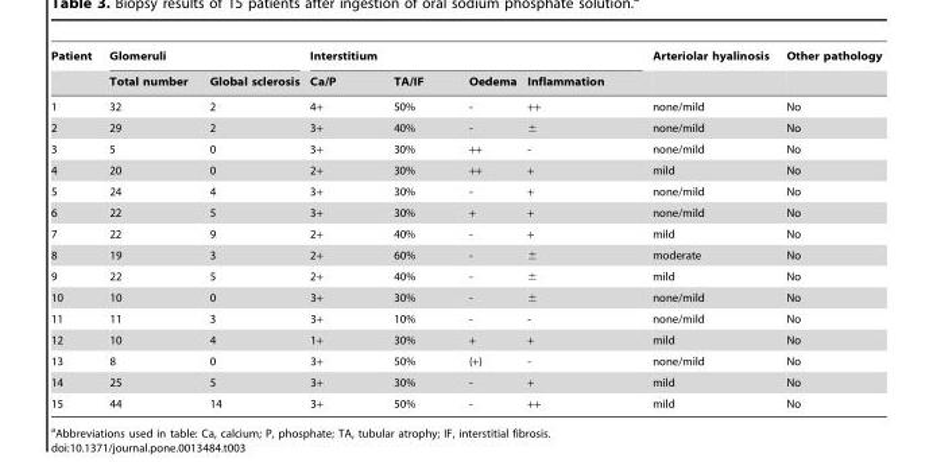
<table><thead><tr><td rowspan="2">Patient</td><td colspan="2">Glomeruli</td><td colspan="4">Interstitium</td><td rowspan="2">Arteriolar hyalinosis</td><td rowspan="2">Other pathology</td></tr><tr><td>Total number</td><td>Global sclerosis</td><td>Ca/P</td><td>TA/IF</td><td>Oedema</td><td>Inflammation</td></tr></thead><tbody><tr><td>1</td><td>32</td><td>2</td><td>4+</td><td>50%</td><td>-</td><td>++</td><td>none/mild</td><td>No</td></tr><tr><td>2</td><td>29</td><td>2</td><td>3+</td><td>40%</td><td>-</td><td>±</td><td>none/mild</td><td>No</td></tr><tr><td>3</td><td>5</td><td>0</td><td>3+</td><td>30%</td><td>++</td><td>-</td><td>none/mild</td><td>No</td></tr><tr><td>4</td><td>20</td><td>0</td><td>2+</td><td>30%</td><td>++</td><td>+</td><td>mild</td><td>No</td></tr><tr><td>5</td><td>24</td><td>4</td><td>3+</td><td>30%</td><td>-</td><td>+</td><td>none/mild</td><td>No</td></tr><tr><td>6</td><td>22</td><td>5</td><td>3+</td><td>30%</td><td>+</td><td>+</td><td>none/mild</td><td>No</td></tr><tr><td>7</td><td>22</td><td>9</td><td>2+</td><td>40%</td><td>-</td><td>+</td><td>mild</td><td>No</td></tr><tr><td>8</td><td>19</td><td>3</td><td>2+</td><td>60%</td><td>-</td><td>±</td><td>moderate</td><td>No</td></tr><tr><td>9</td><td>22</td><td>5</td><td>2+</td><td>40%</td><td>-</td><td>±</td><td>mild</td><td>No</td></tr><tr><td>10</td><td>10</td><td>0</td><td>3+</td><td>30%</td><td>-</td><td>±</td><td>none/mild</td><td>No</td></tr><tr><td>11</td><td>11</td><td>3</td><td>3+</td><td>10%</td><td>-</td><td>-</td><td>none/mild</td><td>No</td></tr><tr><td>12</td><td>10</td><td>4</td><td>1+</td><td>30%</td><td>+</td><td>+</td><td>mild</td><td>No</td></tr><tr><td>13</td><td>8</td><td>0</td><td>3+</td><td>50%</td><td>(+)</td><td>-</td><td>none/mild</td><td>No</td></tr><tr><td>14</td><td>25</td><td>5</td><td>3+</td><td>30%</td><td>-</td><td>+</td><td>mild</td><td>No</td></tr><tr><td>15</td><td>44</td><td>14</td><td>3+</td><td>50%</td><td>-</td><td>++</td><td>mild</td><td>No</td></tr></tbody></table>